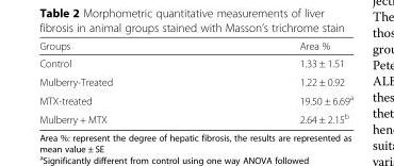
<table><thead><tr><td>Groups</td><td>Area %</td></tr></thead><tbody><tr><td>Control</td><td>1.33 ± 1.51</td></tr><tr><td>Mulberry-Treated</td><td>1.22 ± 0.92</td></tr><tr><td>MTX-treated</td><td>19.50 ± 6.69<sup>a</sup></td></tr><tr><td>Mulberry + MTX</td><td>2.64 ± 2.15<sup>b</sup></td></tr></tbody></table>